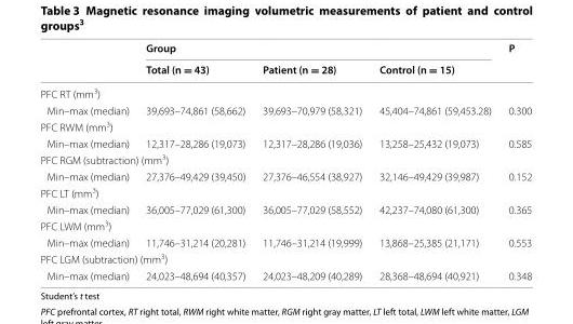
<table><thead><tr><td rowspan="2"></td><td colspan="3">Group</td><td rowspan="2">P</td></tr><tr><td>Total (n = 43)</td><td>Patient (n = 28)</td><td>Control (n = 15)</td></tr></thead><tbody><tr><td colspan="5">PFC RT (mm<sup>3</sup>)</td></tr><tr><td>Min–max (median)</td><td>39,693–74,861 (58,662)</td><td>39,693–70,979 (58,321)</td><td>45,404–74,861 (59,453.28)</td><td>0.300</td></tr><tr><td colspan="5">PFC RWM (mm<sup>3</sup>)</td></tr><tr><td>Min–max (median)</td><td>12,317–28,286 (19,073)</td><td>12,317–28,286 (19,036)</td><td>13,258–25,432 (19,073)</td><td>0.585</td></tr><tr><td colspan="5">PFC RGM (subtraction) (mm<sup>3</sup>)</td></tr><tr><td>Min–max (median)</td><td>27,376–49,429 (39,450)</td><td>27,376–46,554 (38,927)</td><td>32,146–49,429 (39,987)</td><td>0.152</td></tr><tr><td colspan="5">PFC LT (mm<sup>3</sup>)</td></tr><tr><td>Min–max (median)</td><td>36,005–77,029 (61,300)</td><td>36,005–77,029 (58,552)</td><td>42,237–74,080 (61,300)</td><td>0.365</td></tr><tr><td colspan="5">PFC LWM (mm<sup>3</sup>)</td></tr><tr><td>Min–max (median)</td><td>11,746–31,214 (20,281)</td><td>11,746–31,214 (19,999)</td><td>13,868–25,385 (21,171)</td><td>0.553</td></tr><tr><td colspan="5">PFC LGM (subtraction) (mm<sup>3</sup>)</td></tr><tr><td>Min–max (median)</td><td>24,023–48,694 (40,357)</td><td>24,023–48,209 (40,289)</td><td>28,368–48,694 (40,921)</td><td>0.348</td></tr></tbody></table>